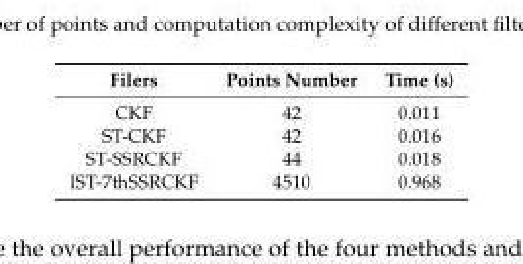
<table><thead><tr><td>Filers</td><td>Points Number</td><td>Time (s)</td></tr></thead><tbody><tr><td>CKF</td><td>42</td><td>0.011</td></tr><tr><td>ST-CKF</td><td>42</td><td>0.016</td></tr><tr><td>ST-SSRCKF</td><td>44</td><td>0.018</td></tr><tr><td>IST-7thSSRCKF</td><td>4510</td><td>0.968</td></tr></tbody></table>